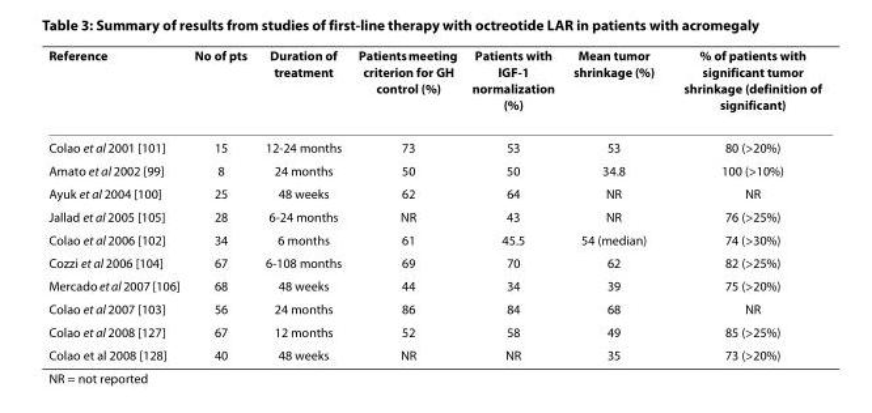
<table><thead><tr><td>Reference</td><td>No of pts</td><td>Duration of treatment</td><td>Patients meeting criterion for GH control (%)</td><td>Patients with IGF-1 normalization (%)</td><td>Mean tumor shrinkage (%)</td><td>% of patients with significant tumor shrinkage (definition of significant)</td></tr></thead><tbody><tr><td>Colao et al 2001 [101]</td><td>15</td><td>12-24 months</td><td>73</td><td>53</td><td>53</td><td>80 (&gt;20%)</td></tr><tr><td>Amato et al 2002 [99]</td><td>8</td><td>24 months</td><td>50</td><td>50</td><td>34.8</td><td>100 (&gt;10%)</td></tr><tr><td>Ayuk et al 2004 [100]</td><td>25</td><td>48 weeks</td><td>62</td><td>64</td><td>NR</td><td>NR</td></tr><tr><td>Jallad et al 2005 [105]</td><td>28</td><td>6-24 months</td><td>NR</td><td>43</td><td>NR</td><td>76 (&gt;25%)</td></tr><tr><td>Colao et al 2006 [102]</td><td>34</td><td>6 months</td><td>61</td><td>45.5</td><td>54 (median)</td><td>74 (&gt;30%)</td></tr><tr><td>Cozzi et al 2006 [104]</td><td>67</td><td>6-108 months</td><td>69</td><td>70</td><td>62</td><td>82 (&gt;25%)</td></tr><tr><td>Mercado et al 2007 [106]</td><td>68</td><td>48 weeks</td><td>44</td><td>34</td><td>39</td><td>75 (&gt;20%)</td></tr><tr><td>Colao et al 2007 [103]</td><td>56</td><td>24 months</td><td>86</td><td>84</td><td>68</td><td>NR</td></tr><tr><td>Colao et al 2008 [127]</td><td>67</td><td>12 months</td><td>52</td><td>58</td><td>49</td><td>85 (&gt;25%)</td></tr><tr><td>Colao et al 2008 [128]</td><td>40</td><td>48 weeks</td><td>NR</td><td>NR</td><td>35</td><td>73 (&gt;20%)</td></tr></tbody></table>